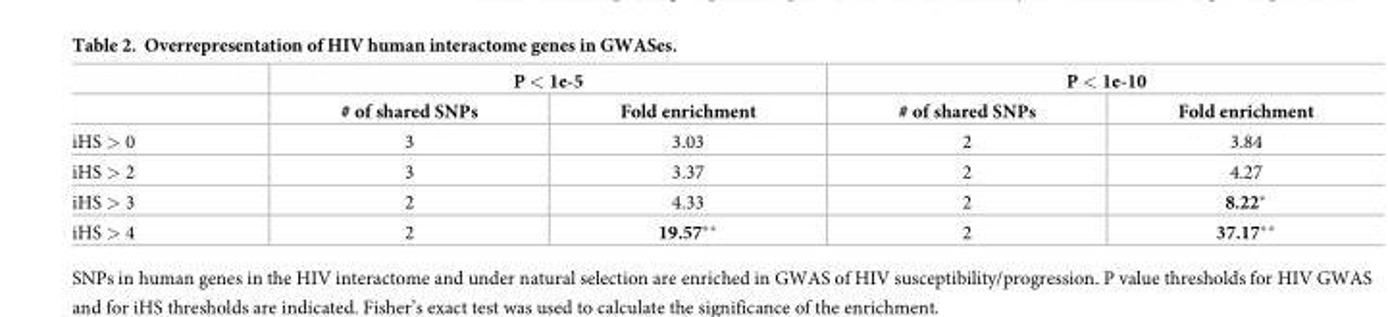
<table><thead><tr><td rowspan="2"></td><td colspan="2">P &lt; 1e-5</td><td colspan="2">P &lt; 1e-10</td></tr><tr><td># of shared SNPs</td><td>Fold enrichment</td><td># of shared SNPs</td><td>Fold enrichment</td></tr></thead><tbody><tr><td>iHS &gt; 0</td><td>3</td><td>3.03</td><td>2</td><td>3.84</td></tr><tr><td>iHS &gt; 2</td><td>3</td><td>3.37</td><td>2</td><td>4.27</td></tr><tr><td>iHS &gt; 3</td><td>2</td><td>4.33</td><td>2</td><td>8.22*</td></tr><tr><td>iHS &gt; 4</td><td>2</td><td>19.57**</td><td>2</td><td>37.17**</td></tr></tbody></table>